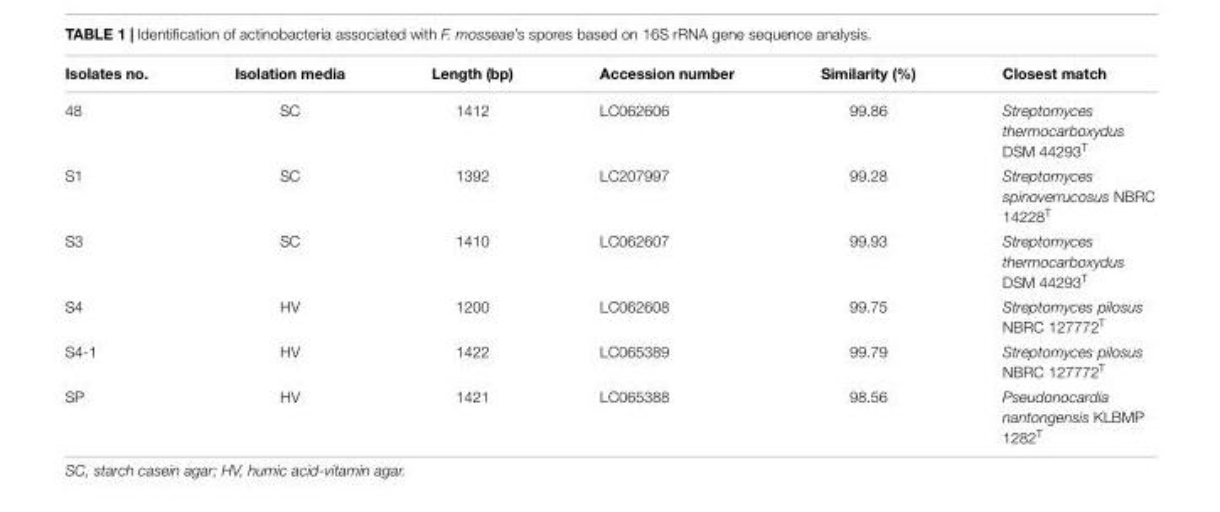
<table><thead><tr><td>Isolates no.</td><td>Isolation media</td><td>Length (bp)</td><td>Accession number</td><td>Similarity (%)</td><td>Closest match</td></tr></thead><tbody><tr><td>48</td><td>SC</td><td>1412</td><td>LC062606</td><td>99.86</td><td>Streptomyces thermocarboxydus DSM 44293<sup>T</sup></td></tr><tr><td>S1</td><td>SC</td><td>1392</td><td>LC207997</td><td>99.28</td><td>Streptomyces spinoverrucosus NBRC 14228<sup>T</sup></td></tr><tr><td>S3</td><td>SC</td><td>1410</td><td>LC062607</td><td>99.93</td><td>Streptomyces thermocarboxydus DSM 44293<sup>T</sup></td></tr><tr><td>S4</td><td>HV</td><td>1200</td><td>LC062608</td><td>99.75</td><td>Streptomyces pilosus NBRC 127772<sup>T</sup></td></tr><tr><td>S4-1</td><td>HV</td><td>1422</td><td>LC065389</td><td>99.79</td><td>Streptomyces pilosus NBRC 127772<sup>T</sup></td></tr><tr><td>SP</td><td>HV</td><td>1421</td><td>LC065388</td><td>98.56</td><td>Pseudonocardia nantongensis KLBMP 1282<sup>T</sup></td></tr></tbody></table>